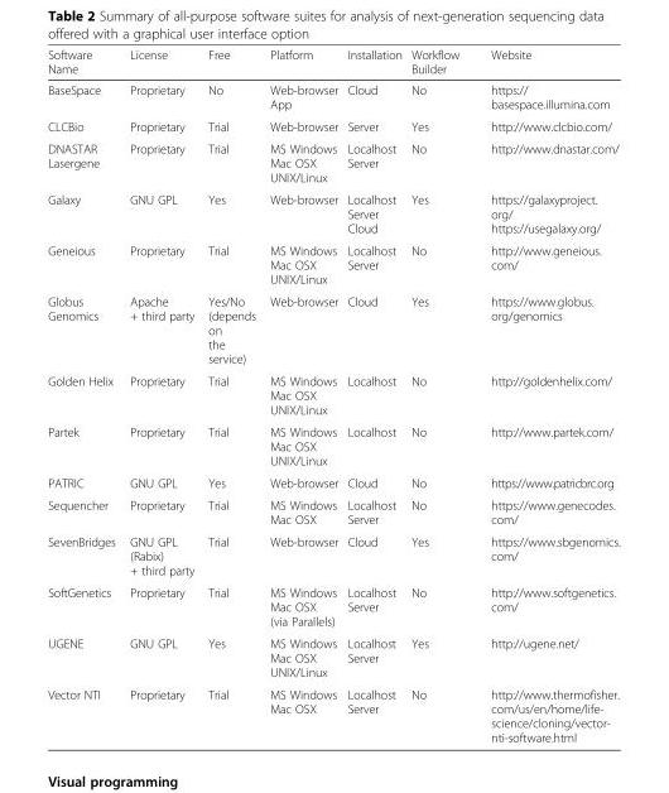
<table><thead><tr><td>Software Name</td><td>License</td><td>Free</td><td>Platform</td><td>Installation</td><td>Workflow Builder</td><td>Website</td></tr></thead><tbody><tr><td>BaseSpace</td><td>Proprietary</td><td>No</td><td>Web-browser App</td><td>Cloud</td><td>No</td><td>https:// basespace.illumina.com</td></tr><tr><td>CLCBio</td><td>Proprietary</td><td>Trial</td><td>Web-browser</td><td>Server</td><td>Yes</td><td>http://www.clcbio.com/</td></tr><tr><td>DNASTAR Lasergene</td><td>Proprietary</td><td>Trial</td><td>MS Windows Mac OSX UNIX/Linux</td><td>Localhost Server</td><td>No</td><td>http://www.dnastar.com/</td></tr><tr><td>Galaxy</td><td>GNU GPL</td><td>Yes</td><td>Web-browser</td><td>Localhost Server Cloud</td><td>Yes</td><td>https://galaxyproject. org/ https://usegalaxy.org/</td></tr><tr><td>Geneious</td><td>Proprietary</td><td>Trial</td><td>MS Windows Mac OSX UNIX/Linux</td><td>Localhost Server</td><td>No</td><td>http://www.geneious. com/</td></tr><tr><td>Globus Genomics</td><td>Apache + third party</td><td>Yes/No (depends on the service)</td><td>Web-browser</td><td>Cloud</td><td>Yes</td><td>https://www.globus. org/genomics</td></tr><tr><td>Golden Helix</td><td>Proprietary</td><td>Trial</td><td>MS Windows Mac OSX UNIX/Linux</td><td>Localhost</td><td>No</td><td>http://goldenhelix.com/</td></tr><tr><td>Partek</td><td>Proprietary</td><td>Trial</td><td>MS Windows Mac OSX UNIX/Linux</td><td>Localhost</td><td>No</td><td>http://www.partek.com/</td></tr><tr><td>PATRIC</td><td>GNU GPL</td><td>Yes</td><td>Web-browser</td><td>Cloud</td><td>No</td><td>https://www.patricbrc.org</td></tr><tr><td>Sequencher</td><td>Proprietary</td><td>Trial</td><td>MS Windows Mac OSX</td><td>Localhost Server</td><td>No</td><td>https://www.genecodes. com/</td></tr><tr><td>SevenBridges</td><td>GNU GPL (Rabix) + third party</td><td>Trial</td><td>Web-browser</td><td>Cloud</td><td>Yes</td><td>https://www.sbgenomics. com/</td></tr><tr><td>SoftGenetics</td><td>Proprietary</td><td>Trial</td><td>MS Windows Mac OSX (via Parallels)</td><td>Localhost Server</td><td>No</td><td>http://www.softgenetics. com/</td></tr><tr><td>UGENE</td><td>GNU GPL</td><td>Yes</td><td>MS Windows Mac OSX UNIX/Linux</td><td>Localhost Server</td><td>Yes</td><td>http://ugene.net/</td></tr><tr><td>Vector NTI</td><td>Proprietary</td><td>Trial</td><td>MS Windows Mac OSX</td><td>Localhost Server</td><td>No</td><td>http://www.thermofisher. com/us/en/home/life- science/cloning/vector- nti-software.html</td></tr></tbody></table>